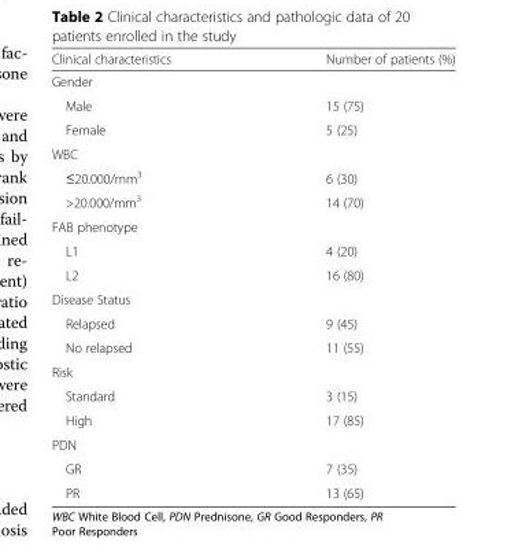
<table><thead><tr><td>Clinical characteristics</td><td>Number of patients (%)</td></tr></thead><tbody><tr><td colspan="2">Gender</td></tr><tr><td>Male</td><td>15 (75)</td></tr><tr><td>Female</td><td>5 (25)</td></tr><tr><td colspan="2">WBC</td></tr><tr><td>≤20.000/mm<sup>3</sup></td><td>6 (30)</td></tr><tr><td>&gt;20.000/mm<sup>3</sup></td><td>14 (70)</td></tr><tr><td colspan="2">FAB phenotype</td></tr><tr><td>L1</td><td>4 (20)</td></tr><tr><td>L2</td><td>16 (80)</td></tr><tr><td colspan="2">Disease Status</td></tr><tr><td>Relapsed</td><td>9 (45)</td></tr><tr><td>No relapsed</td><td>11 (55)</td></tr><tr><td colspan="2">Risk</td></tr><tr><td>Standard</td><td>3 (15)</td></tr><tr><td>High</td><td>17 (85)</td></tr><tr><td colspan="2">PDN</td></tr><tr><td>GR</td><td>7 (35)</td></tr><tr><td>PR</td><td>13 (65)</td></tr></tbody></table>